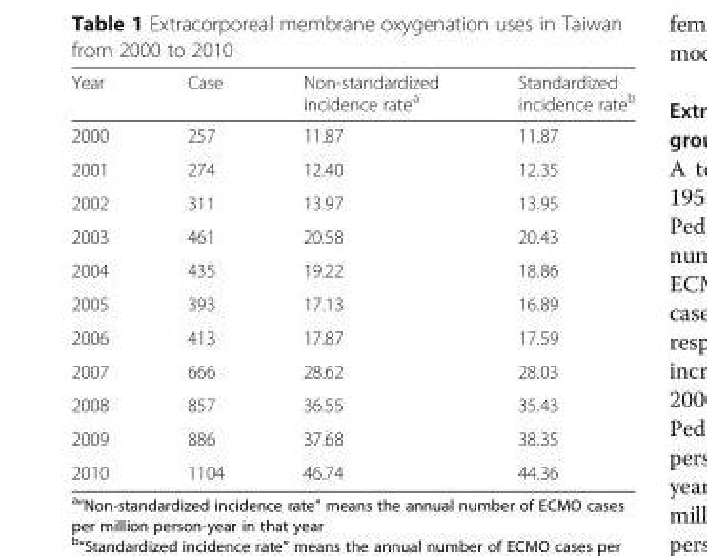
<table><thead><tr><td>Year</td><td>Case</td><td>Non-standardized incidence rate<sup>a</sup></td><td>Standardized incidence rate<sup>b</sup></td></tr></thead><tbody><tr><td>2000</td><td>257</td><td>11.87</td><td>11.87</td></tr><tr><td>2001</td><td>274</td><td>12.40</td><td>12.35</td></tr><tr><td>2002</td><td>311</td><td>13.97</td><td>13.95</td></tr><tr><td>2003</td><td>461</td><td>20.58</td><td>20.43</td></tr><tr><td>2004</td><td>435</td><td>19.22</td><td>18.86</td></tr><tr><td>2005</td><td>393</td><td>17.13</td><td>16.89</td></tr><tr><td>2006</td><td>413</td><td>17.87</td><td>17.59</td></tr><tr><td>2007</td><td>666</td><td>28.62</td><td>28.03</td></tr><tr><td>2008</td><td>857</td><td>36.55</td><td>35.43</td></tr><tr><td>2009</td><td>886</td><td>37.68</td><td>38.35</td></tr><tr><td>2010</td><td>1104</td><td>46.74</td><td>44.36</td></tr></tbody></table>